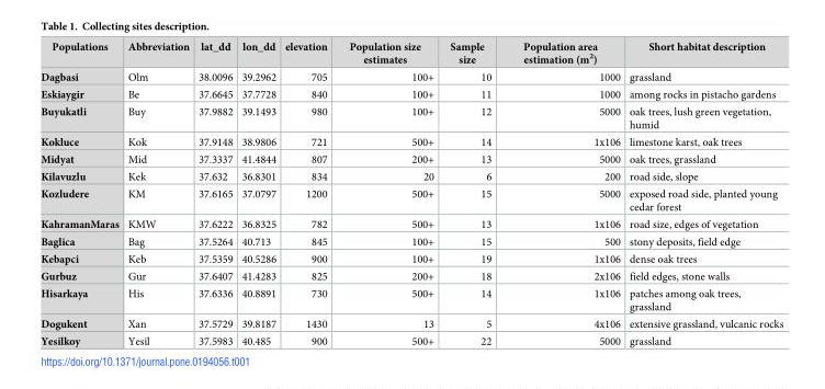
<table><thead><tr><td>Populations</td><td>Abbreviation</td><td>lat_dd</td><td>lon_dd</td><td>elevation</td><td>Population size estimates</td><td>Sample size</td><td>Population area estimation (m<sup>2</sup>)</td><td>Short habitat description</td></tr></thead><tbody><tr><td>Dagbasi</td><td>Olm</td><td>38.0096</td><td>39.2962</td><td>705</td><td>100+</td><td>10</td><td>1000</td><td>grassland</td></tr><tr><td>Eskiaygir</td><td>Be</td><td>37.6645</td><td>37.7728</td><td>840</td><td>100+</td><td>11</td><td>1000</td><td>among rocks in pistacho gardens</td></tr><tr><td>Buyukatli</td><td>Buy</td><td>37.9882</td><td>39.1493</td><td>980</td><td>100+</td><td>12</td><td>5000</td><td>oak trees, lush green vegetation, humid</td></tr><tr><td>Kokluce</td><td>Kok</td><td>37.9148</td><td>38.9806</td><td>721</td><td>500+</td><td>14</td><td>1x106</td><td>limestone karst, oak trees</td></tr><tr><td>Midyat</td><td>Mid</td><td>37.3337</td><td>41.4844</td><td>807</td><td>200+</td><td>13</td><td>5000</td><td>oak trees, grassland</td></tr><tr><td>Kilavuzlu</td><td>Kek</td><td>37.632</td><td>36.8301</td><td>834</td><td>20</td><td>6</td><td>200</td><td>road side, slope</td></tr><tr><td>Kozludere</td><td>KM</td><td>37.6165</td><td>37.0797</td><td>1200</td><td>500+</td><td>15</td><td>5000</td><td>exposed road side, planted young cedar forest</td></tr><tr><td>KahramanMaras</td><td>KMW</td><td>37.6222</td><td>36.8325</td><td>782</td><td>500+</td><td>13</td><td>1x106</td><td>road size, edges of vegetation</td></tr><tr><td>Baglica</td><td>Bag</td><td>37.5264</td><td>40.713</td><td>845</td><td>100+</td><td>15</td><td>500</td><td>stony deposits, field edge</td></tr><tr><td>Kebapci</td><td>Keb</td><td>37.5359</td><td>40.5286</td><td>900</td><td>100+</td><td>19</td><td>1x106</td><td>dense oak trees</td></tr><tr><td>Gurbuz</td><td>Gur</td><td>37.6407</td><td>41.4283</td><td>825</td><td>200+</td><td>18</td><td>2x106</td><td>field edges, stone walls</td></tr><tr><td>Hisarkaya</td><td>His</td><td>37.6336</td><td>40.8891</td><td>730</td><td>500+</td><td>14</td><td>1x106</td><td>patches among oak trees, grassland</td></tr><tr><td>Dogukent</td><td>Xan</td><td>37.5729</td><td>39.8187</td><td>1430</td><td>13</td><td>5</td><td>4x106</td><td>extensive grassland, vulcanic rocks</td></tr><tr><td>Yesilkoy</td><td>Yesil</td><td>37.5983</td><td>40.485</td><td>900</td><td>500+</td><td>22</td><td>5000</td><td>grassland</td></tr></tbody></table>